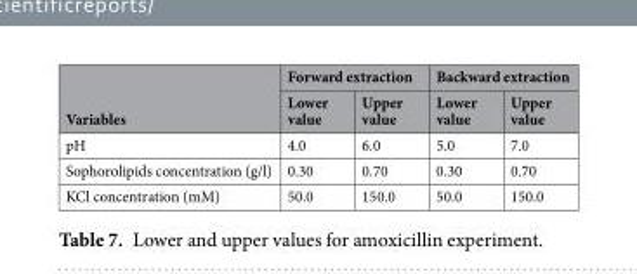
<table><thead><tr><td rowspan="2">Variables</td><td colspan="2">Forward extraction</td><td colspan="2">Backward extraction</td></tr><tr><td>Lower value</td><td>Upper value</td><td>Lower value</td><td>Upper value</td></tr></thead><tbody><tr><td>pH</td><td>4.0</td><td>6.0</td><td>5.0</td><td>7.0</td></tr><tr><td>Sophorolipids concentration (g/l)</td><td>0.30</td><td>0.70</td><td>0.30</td><td>0.70</td></tr><tr><td>KCl concentration (mM)</td><td>50.0</td><td>150.0</td><td>50.0</td><td>150.0</td></tr></tbody></table>